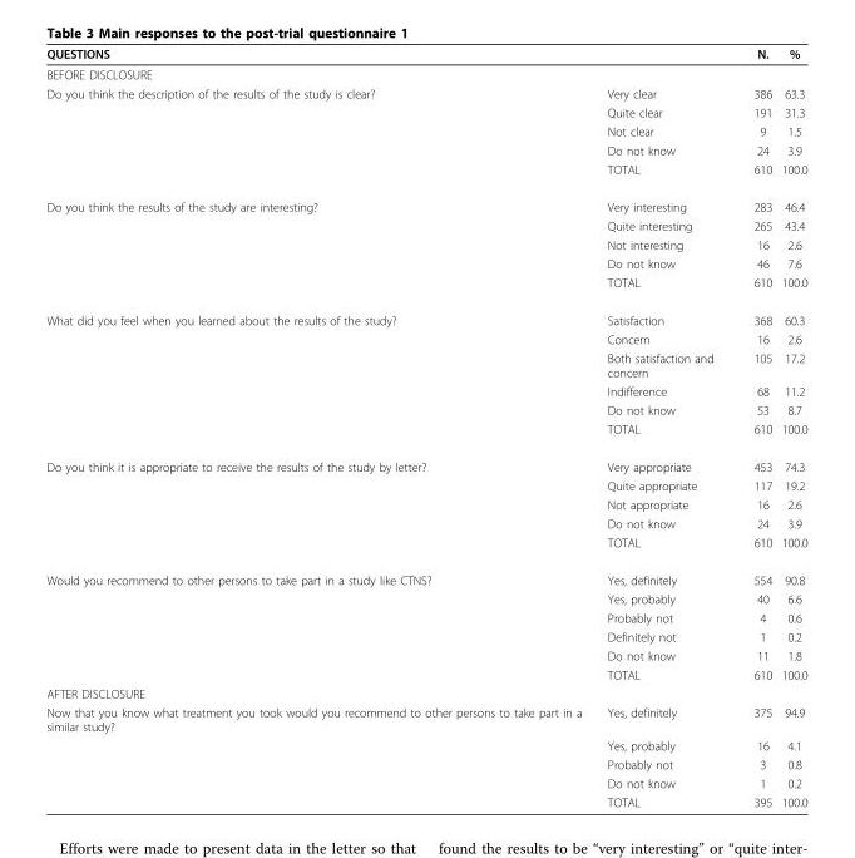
<table><thead><tr><td>QUESTIONS</td><td></td><td>N.</td><td>%</td></tr></thead><tbody><tr><td colspan="4">BEFORE DISCLOSURE</td></tr><tr><td rowspan="5">Do you think the description of the results of the study is clear?</td><td>Very clear</td><td>386</td><td>63.3</td></tr><tr><td>Quite clear</td><td>191</td><td>31.3</td></tr><tr><td>Not clear</td><td>9</td><td>1.5</td></tr><tr><td>Do not know</td><td>24</td><td>3.9</td></tr><tr><td>TOTAL</td><td>610</td><td>100.0</td></tr><tr><td rowspan="5">Do you think the results of the study are interesting?</td><td>Very interesting</td><td>283</td><td>46.4</td></tr><tr><td>Quite interesting</td><td>265</td><td>43.4</td></tr><tr><td>Not interesting</td><td>16</td><td>2.6</td></tr><tr><td>Do not know</td><td>46</td><td>7.6</td></tr><tr><td>TOTAL</td><td>610</td><td>100.0</td></tr><tr><td rowspan="6">What did you feel when you learned about the results of the study?</td><td>Satisfaction</td><td>368</td><td>60.3</td></tr><tr><td>Concern</td><td>16</td><td>2.6</td></tr><tr><td>Both satisfaction and concern</td><td>105</td><td>17.2</td></tr><tr><td>Indifference</td><td>68</td><td>11.2</td></tr><tr><td>Do not know</td><td>53</td><td>8.7</td></tr><tr><td>TOTAL</td><td>610</td><td>100.0</td></tr><tr><td rowspan="5">Do you think it is appropriate to receive the results of the study by letter?</td><td>Very appropriate</td><td>453</td><td>74.3</td></tr><tr><td>Quite appropriate</td><td>117</td><td>19.2</td></tr><tr><td>Not appropriate</td><td>16</td><td>2.6</td></tr><tr><td>Do not know</td><td>24</td><td>3.9</td></tr><tr><td>TOTAL</td><td>610</td><td>100.0</td></tr><tr><td rowspan="6">Would you recommend to other persons to take part in a study like CTNS?</td><td>Yes, definitely</td><td>554</td><td>90.8</td></tr><tr><td>Yes, probably</td><td>40</td><td>6.6</td></tr><tr><td>Probably not</td><td>4</td><td>0.6</td></tr><tr><td>Definitely not</td><td>1</td><td>0.2</td></tr><tr><td>Do not know</td><td>11</td><td>1.8</td></tr><tr><td>TOTAL</td><td>610</td><td>100.0</td></tr><tr><td colspan="4">AFTER DISCLOSURE</td></tr><tr><td rowspan="5">Now that you know what treatment you took would you recommend to other persons to take part in a similar study?</td><td>Yes, definitely</td><td>375</td><td>94.9</td></tr><tr><td>Yes, probably</td><td>16</td><td>4.1</td></tr><tr><td>Probably not</td><td>3</td><td>0.8</td></tr><tr><td>Do not know</td><td>1</td><td>0.2</td></tr><tr><td>TOTAL</td><td>395</td><td>100.0</td></tr></tbody></table>